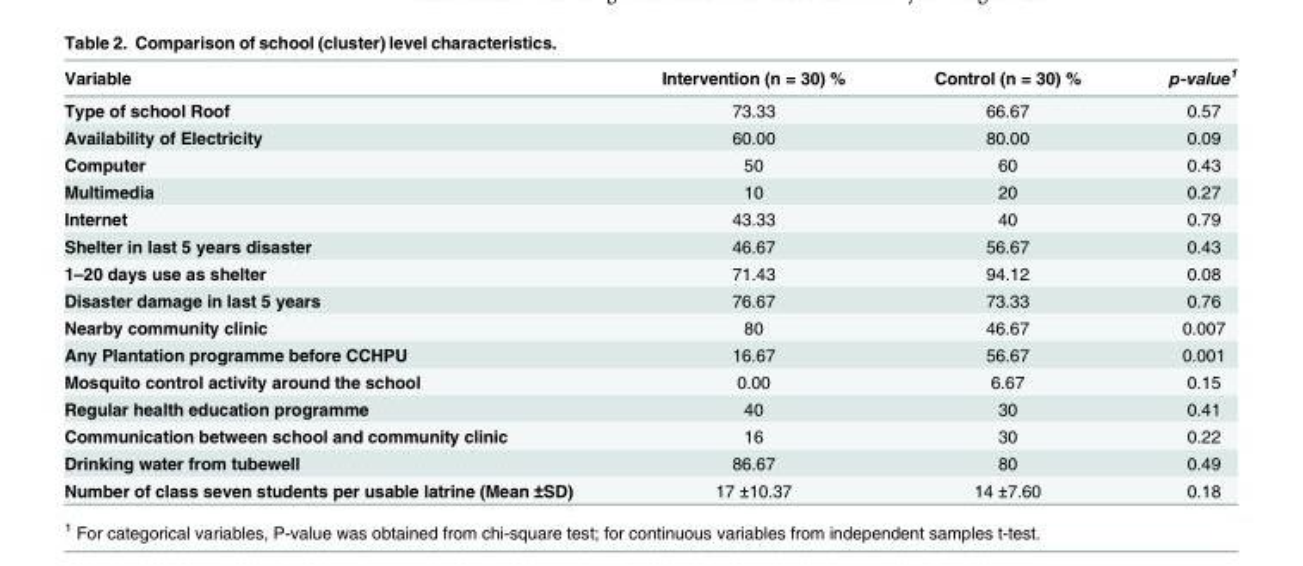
<table><thead><tr><td>Variable</td><td>Intervention (n = 30) %</td><td>Control (n = 30) %</td><td>p-value<sup>1</sup></td></tr></thead><tbody><tr><td>Type of school Roof</td><td>73.33</td><td>66.67</td><td>0.57</td></tr><tr><td>Availability of Electricity</td><td>60.00</td><td>80.00</td><td>0.09</td></tr><tr><td>Computer</td><td>50</td><td>60</td><td>0.43</td></tr><tr><td>Multimedia</td><td>10</td><td>20</td><td>0.27</td></tr><tr><td>Internet</td><td>43.33</td><td>40</td><td>0.79</td></tr><tr><td>Shelter in last 5 years disaster</td><td>46.67</td><td>56.67</td><td>0.43</td></tr><tr><td>1–20 days use as shelter</td><td>71.43</td><td>94.12</td><td>0.08</td></tr><tr><td>Disaster damage in last 5 years</td><td>76.67</td><td>73.33</td><td>0.76</td></tr><tr><td>Nearby community clinic</td><td>80</td><td>46.67</td><td>0.007</td></tr><tr><td>Any Plantation programme before CCHPU</td><td>16.67</td><td>56.67</td><td>0.001</td></tr><tr><td>Mosquito control activity around the school</td><td>0.00</td><td>6.67</td><td>0.15</td></tr><tr><td>Regular health education programme</td><td>40</td><td>30</td><td>0.41</td></tr><tr><td>Communication between school and community clinic</td><td>16</td><td>30</td><td>0.22</td></tr><tr><td>Drinking water from tubewell</td><td>86.67</td><td>80</td><td>0.49</td></tr><tr><td>Number of class seven students per usable latrine (Mean ±SD)</td><td>17 ±10.37</td><td>14 ±7.60</td><td>0.18</td></tr></tbody></table>